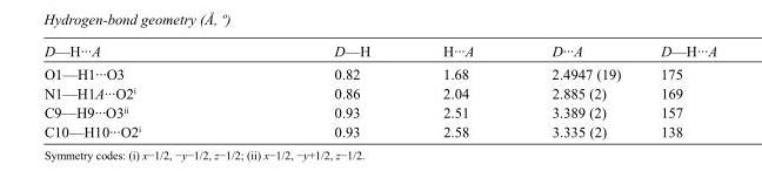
<table><tbody><tr><td>D—H···A</td><td>D—H</td><td>H···A</td><td>D···A</td><td>D—H···A</td></tr><tr><td>O1—H1···O3</td><td>0.82</td><td>1.68</td><td>2.4947 (19)</td><td>175</td></tr><tr><td>N1—H1A···O2<sup>i</sup></td><td>0.86</td><td>2.04</td><td>2.885 (2)</td><td>169</td></tr><tr><td>C9—H9···O3<sup>ii</sup></td><td>0.93</td><td>2.51</td><td>3.389 (2)</td><td>157</td></tr><tr><td>C10—H10···O2<sup>i</sup></td><td>0.93</td><td>2.58</td><td>3.335 (2)</td><td>138</td></tr></tbody></table>